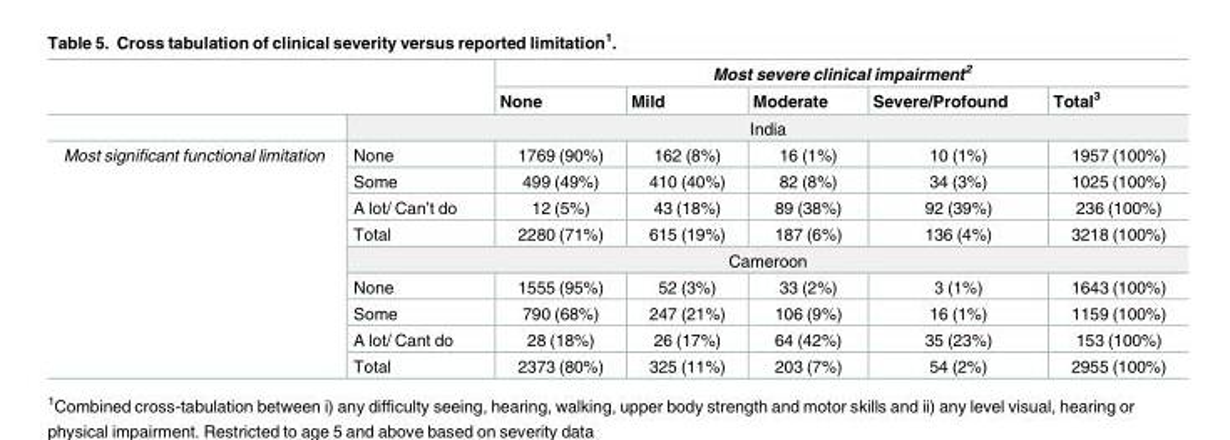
<table><thead><tr><td rowspan="2"></td><td rowspan="2"></td><td colspan="5">Most severe clinical impairment<sup>2</sup></td></tr><tr><td>None</td><td>Mild</td><td>Moderate</td><td>Severe/Profound</td><td>Total<sup>3</sup></td></tr></thead><tbody><tr><td></td><td colspan="6">India</td></tr><tr><td rowspan="9">Most significant functional limitation</td><td>None</td><td>1769 (90%)</td><td>162 (8%)</td><td>16 (1%)</td><td>10 (1%)</td><td>1957 (100%)</td></tr><tr><td>Some</td><td>499 (49%)</td><td>410 (40%)</td><td>82 (8%)</td><td>34 (3%)</td><td>1025 (100%)</td></tr><tr><td>A lot/ Can’t do</td><td>12 (5%)</td><td>43 (18%)</td><td>89 (38%)</td><td>92 (39%)</td><td>236 (100%)</td></tr><tr><td>Total</td><td>2280 (71%)</td><td>615 (19%)</td><td>187 (6%)</td><td>136 (4%)</td><td>3218 (100%)</td></tr><tr><td colspan="6">Cameroon</td></tr><tr><td>None</td><td>1555 (95%)</td><td>52 (3%)</td><td>33 (2%)</td><td>3 (1%)</td><td>1643 (100%)</td></tr><tr><td>Some</td><td>790 (68%)</td><td>247 (21%)</td><td>106 (9%)</td><td>16 (1%)</td><td>1159 (100%)</td></tr><tr><td>A lot/ Cant do</td><td>28 (18%)</td><td>26 (17%)</td><td>64 (42%)</td><td>35 (23%)</td><td>153 (100%)</td></tr><tr><td>Total</td><td>2373 (80%)</td><td>325 (11%)</td><td>203 (7%)</td><td>54 (2%)</td><td>2955 (100%)</td></tr></tbody></table>